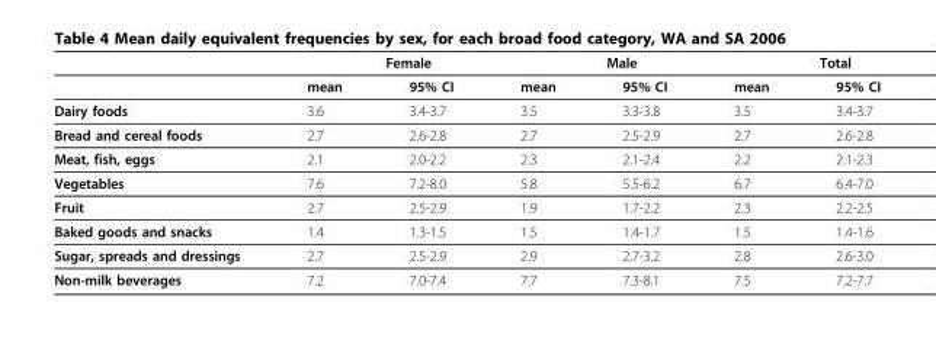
<table><thead><tr><td rowspan="2"></td><td colspan="2">Female</td><td colspan="2">Male</td><td colspan="2">Total</td></tr><tr><td>mean</td><td>95% CI</td><td>mean</td><td>95% CI</td><td>mean</td><td>95% CI</td></tr></thead><tbody><tr><td>Dairy foods</td><td>3.6</td><td>3.4-3.7</td><td>3.5</td><td>3.3-3.8</td><td>3.5</td><td>3.4-3.7</td></tr><tr><td>Bread and cereal foods</td><td>2.7</td><td>2.6-2.8</td><td>2.7</td><td>2.5-2.9</td><td>2.7</td><td>2.6-2.8</td></tr><tr><td>Meat, fish, eggs</td><td>2.1</td><td>2.0-2.2</td><td>2.3</td><td>2.1-2.4</td><td>2.2</td><td>2.1-2.3</td></tr><tr><td>Vegetables</td><td>7.6</td><td>7.2-8.0</td><td>5.8</td><td>5.5-6.2</td><td>6.7</td><td>6.4-7.0</td></tr><tr><td>Fruit</td><td>2.7</td><td>2.5-2.9</td><td>1.9</td><td>1.7-2.2</td><td>2.3</td><td>2.2-2.5</td></tr><tr><td>Baked goods and snacks</td><td>1.4</td><td>1.3-1.5</td><td>1.5</td><td>1.4-1.7</td><td>1.5</td><td>1.4-1.6</td></tr><tr><td>Sugar, spreads and dressings</td><td>2.7</td><td>2.5-2.9</td><td>2.9</td><td>2.7-3.2</td><td>2.8</td><td>2.6-3.0</td></tr><tr><td>Non-milk beverages</td><td>7.2</td><td>7.0-7.4</td><td>7.7</td><td>7.3-8.1</td><td>7.5</td><td>7.2-7.7</td></tr></tbody></table>